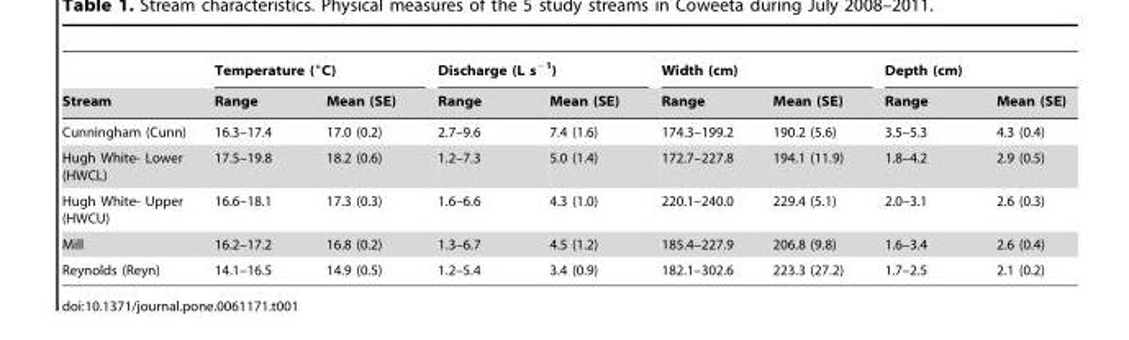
<table><thead><tr><td rowspan="2">Stream</td><td colspan="2">Temperature (°C)</td><td colspan="2">Discharge (L s<sup>−1</sup>)</td><td colspan="2">Width (cm)</td><td colspan="2">Depth (cm)</td></tr><tr><td>Range</td><td>Mean (SE)</td><td>Range</td><td>Mean (SE)</td><td>Range</td><td>Mean (SE)</td><td>Range</td><td>Mean (SE)</td></tr></thead><tbody><tr><td>Cunningham (Cunn)</td><td>16.3–17.4</td><td>17.0 (0.2)</td><td>2.7–9.6</td><td>7.4 (1.6)</td><td>174.3–199.2</td><td>190.2 (5.6)</td><td>3.5–5.3</td><td>4.3 (0.4)</td></tr><tr><td>Hugh White- Lower (HWCL)</td><td>17.5–19.8</td><td>18.2 (0.6)</td><td>1.2–7.3</td><td>5.0 (1.4)</td><td>172.7–227.8</td><td>194.1 (11.9)</td><td>1.8–4.2</td><td>2.9 (0.5)</td></tr><tr><td>Hugh White- Upper (HWCU)</td><td>16.6–18.1</td><td>17.3 (0.3)</td><td>1.6–6.6</td><td>4.3 (1.0)</td><td>220.1–240.0</td><td>229.4 (5.1)</td><td>2.0–3.1</td><td>2.6 (0.3)</td></tr><tr><td>Mill</td><td>16.2–17.2</td><td>16.8 (0.2)</td><td>1.3–6.7</td><td>4.5 (1.2)</td><td>185.4–227.9</td><td>206.8 (9.8)</td><td>1.6–3.4</td><td>2.6 (0.4)</td></tr><tr><td>Reynolds (Reyn)</td><td>14.1–16.5</td><td>14.9 (0.5)</td><td>1.2–5.4</td><td>3.4 (0.9)</td><td>182.1–302.6</td><td>223.3 (27.2)</td><td>1.7–2.5</td><td>2.1 (0.2)</td></tr></tbody></table>